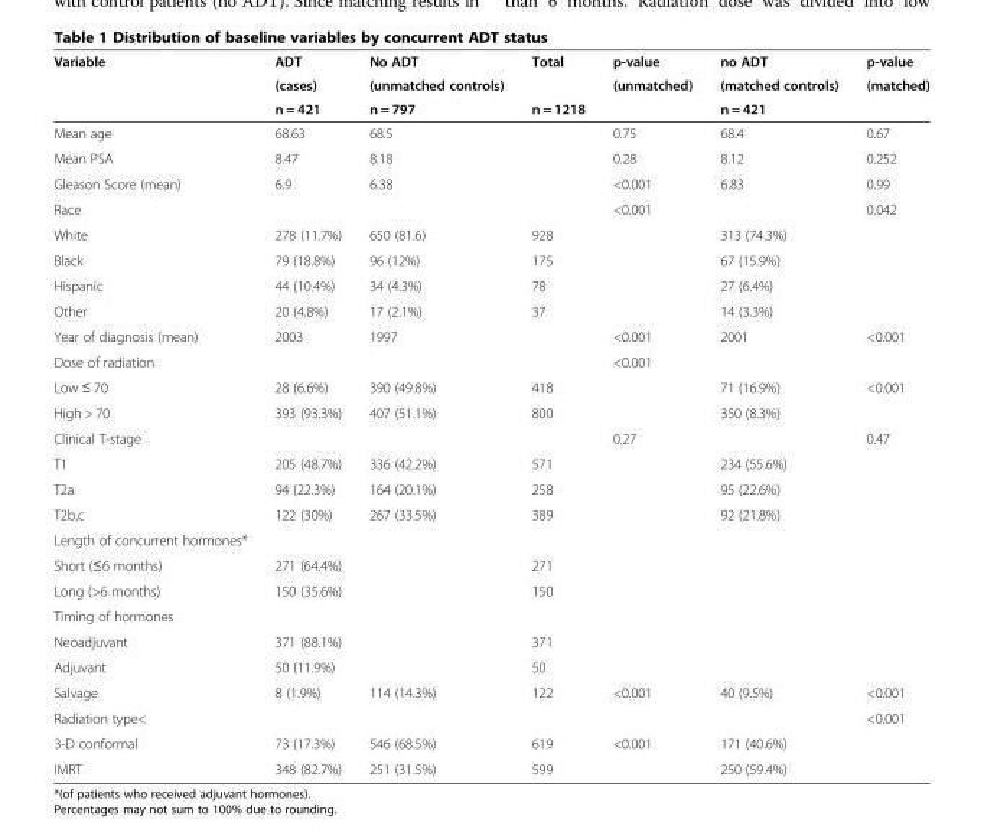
<table><thead><tr><td rowspan="3">Variable</td><td rowspan="3">ADT (cases) n = 421</td><td rowspan="3">No ADT (unmatched controls) n = 797</td><td rowspan="3">Total n = 1218</td><td rowspan="3">p-value (unmatched)</td><td rowspan="3">no ADT (matched controls) n = 421</td><td rowspan="3">p-value (matched)</td></tr><tr></tr><tr></tr></thead><tbody><tr><td>Mean age</td><td>68.63</td><td>68.5</td><td></td><td>0.75</td><td>68.4</td><td>0.67</td></tr><tr><td>Mean PSA</td><td>8.47</td><td>8.18</td><td></td><td>0.28</td><td>8.12</td><td>0.252</td></tr><tr><td>Gleason Score (mean)</td><td>6.9</td><td>6.38</td><td></td><td>&lt;0.001</td><td>6.83</td><td>0.99</td></tr><tr><td>Race</td><td></td><td></td><td></td><td>&lt;0.001</td><td></td><td>0.042</td></tr><tr><td>White</td><td>278 (11.7%)</td><td>650 (81.6)</td><td>928</td><td></td><td>313 (74.3%)</td><td></td></tr><tr><td>Black</td><td>79 (18.8%)</td><td>96 (12%)</td><td>175</td><td></td><td>67 (15.9%)</td><td></td></tr><tr><td>Hispanic</td><td>44 (10.4%)</td><td>34 (4.3%)</td><td>78</td><td></td><td>27 (6.4%)</td><td></td></tr><tr><td>Other</td><td>20 (4.8%)</td><td>17 (2.1%)</td><td>37</td><td></td><td>14 (3.3%)</td><td></td></tr><tr><td>Year of diagnosis (mean)</td><td>2003</td><td>1997</td><td></td><td>&lt;0.001</td><td>2001</td><td>&lt;0.001</td></tr><tr><td>Dose of radiation</td><td></td><td></td><td></td><td>&lt;0.001</td><td></td><td></td></tr><tr><td>Low ≤ 70</td><td>28 (6.6%)</td><td>390 (49.8%)</td><td>418</td><td></td><td>71 (16.9%)</td><td>&lt;0.001</td></tr><tr><td>High &gt; 70</td><td>393 (93.3%)</td><td>407 (51.1%)</td><td>800</td><td></td><td>350 (8.3%)</td><td></td></tr><tr><td>Clinical T-stage</td><td></td><td></td><td></td><td>0.27</td><td></td><td>0.47</td></tr><tr><td>T1</td><td>205 (48.7%)</td><td>336 (42.2%)</td><td>571</td><td></td><td>234 (55.6%)</td><td></td></tr><tr><td>T2a</td><td>94 (22.3%)</td><td>164 (20.1%)</td><td>258</td><td></td><td>95 (22.6%)</td><td></td></tr><tr><td>T2b,c</td><td>122 (30%)</td><td>267 (33.5%)</td><td>389</td><td></td><td>92 (21.8%)</td><td></td></tr><tr><td colspan="7">Length of concurrent hormones*</td></tr><tr><td>Short (≤6 months)</td><td>271 (64.4%)</td><td></td><td>271</td><td></td><td></td><td></td></tr><tr><td>Long (&gt;6 months)</td><td>150 (35.6%)</td><td></td><td>150</td><td></td><td></td><td></td></tr><tr><td colspan="7">Timing of hormones</td></tr><tr><td>Neoadjuvant</td><td>371 (88.1%)</td><td></td><td>371</td><td></td><td></td><td></td></tr><tr><td>Adjuvant</td><td>50 (11.9%)</td><td></td><td>50</td><td></td><td></td><td></td></tr><tr><td>Salvage</td><td>8 (1.9%)</td><td>114 (14.3%)</td><td>122</td><td>&lt;0.001</td><td>40 (9.5%)</td><td>&lt;0.001</td></tr><tr><td>Radiation type&lt;</td><td></td><td></td><td></td><td></td><td></td><td>&lt;0.001</td></tr><tr><td>3-D conformal</td><td>73 (17.3%)</td><td>546 (68.5%)</td><td>619</td><td>&lt;0.001</td><td>171 (40.6%)</td><td></td></tr><tr><td>IMRT</td><td>348 (82.7%)</td><td>251 (31.5%)</td><td>599</td><td></td><td>250 (59.4%)</td><td></td></tr></tbody></table>